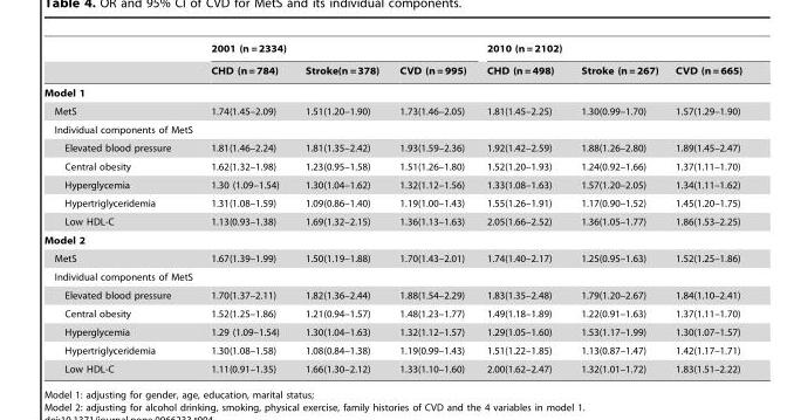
<table><thead><tr><td rowspan="2"></td><td colspan="3">2001 (n = 2334)</td><td colspan="3">2010 (n = 2102)</td></tr><tr><td>CHD (n = 784)</td><td>Stroke(n = 378)</td><td>CVD (n = 995)</td><td>CHD (n = 498)</td><td>Stroke (n = 267)</td><td>CVD (n = 665)</td></tr></thead><tbody><tr><td colspan="7">Model 1</td></tr><tr><td>MetS</td><td>1.74(1.45–2.09)</td><td>1.51(1.20–1.90)</td><td>1.73(1.46–2.05)</td><td>1.81(1.45–2.25)</td><td>1.30(0.99–1.70)</td><td>1.57(1.29–1.90)</td></tr><tr><td colspan="7">Individual components of MetS</td></tr><tr><td>Elevated blood pressure</td><td>1.81(1.46–2.24)</td><td>1.81(1.35–2.42)</td><td>1.93(1.59–2.36)</td><td>1.92(1.42–2.59)</td><td>1.88(1.26–2.80)</td><td>1.89(1.45–2.47)</td></tr><tr><td>Central obesity</td><td>1.62(1.32–1.98)</td><td>1.23(0.95–1.58)</td><td>1.51(1.26–1.80)</td><td>1.52(1.20–1.93)</td><td>1.24(0.92–1.66)</td><td>1.37(1.11–1.70)</td></tr><tr><td>Hyperglycemia</td><td>1.30 (1.09–1.54)</td><td>1.30(1.04–1.62)</td><td>1.32(1.12–1.56)</td><td>1.33(1.08–1.63)</td><td>1.57(1.20–2.05)</td><td>1.34(1.11–1.62)</td></tr><tr><td>Hypertriglyceridemia</td><td>1.31(1.08–1.59)</td><td>1.09(0.86–1.40)</td><td>1.19(1.00–1.43)</td><td>1.55(1.26–1.91)</td><td>1.17(0.90–1.52)</td><td>1.45(1.20–1.75)</td></tr><tr><td>Low HDL-C</td><td>1.13(0.93–1.38)</td><td>1.69(1.32–2.15)</td><td>1.36(1.13–1.63)</td><td>2.05(1.66–2.52)</td><td>1.36(1.05–1.77)</td><td>1.86(1.53–2.25)</td></tr><tr><td colspan="7">Model 2</td></tr><tr><td>MetS</td><td>1.67(1.39–1.99)</td><td>1.50(1.19–1.88)</td><td>1.70(1.43–2.01)</td><td>1.74(1.40–2.17)</td><td>1.25(0.95–1.63)</td><td>1.52(1.25–1.86)</td></tr><tr><td colspan="7">Individual components of MetS</td></tr><tr><td>Elevated blood pressure</td><td>1.70(1.37–2.11)</td><td>1.82(1.36–2.44)</td><td>1.88(1.54–2.29)</td><td>1.83(1.35–2.48)</td><td>1.79(1.20–2.67)</td><td>1.84(1.10–2.41)</td></tr><tr><td>Central obesity</td><td>1.52(1.25–1.86)</td><td>1.21(0.94–1.57)</td><td>1.48(1.23–1.77)</td><td>1.49(1.18–1.89)</td><td>1.22(0.91–1.63)</td><td>1.37(1.11–1.70)</td></tr><tr><td>Hyperglycemia</td><td>1.29 (1.09–1.54)</td><td>1.30(1.04–1.63)</td><td>1.32(1.12–1.57)</td><td>1.29(1.05–1.60)</td><td>1.53(1.17–1.99)</td><td>1.30(1.07–1.57)</td></tr><tr><td>Hypertriglyceridemia</td><td>1.30(1.08–1.58)</td><td>1.08(0.84–1.38)</td><td>1.19(0.99–1.43)</td><td>1.51(1.22–1.85)</td><td>1.13(0.87–1.47)</td><td>1.42(1.17–1.71)</td></tr><tr><td>Low HDL-C</td><td>1.11(0.91–1.35)</td><td>1.66(1.30–2.12)</td><td>1.33(1.10–1.60)</td><td>2.00(1.62–2.47)</td><td>1.32(1.01–1.72)</td><td>1.83(1.51–2.22)</td></tr></tbody></table>